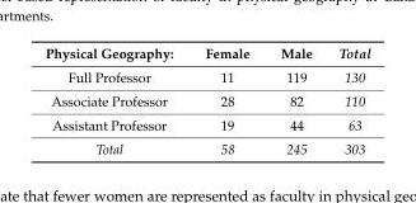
<table><thead><tr><td>Physical Geography:</td><td>Female</td><td>Male</td><td>Total</td></tr></thead><tbody><tr><td>Full Professor</td><td>11</td><td>119</td><td>130</td></tr><tr><td>Associate Professor</td><td>28</td><td>82</td><td>110</td></tr><tr><td>Assistant Professor</td><td>19</td><td>44</td><td>63</td></tr><tr><td>Total</td><td>58</td><td>245</td><td>303</td></tr></tbody></table>